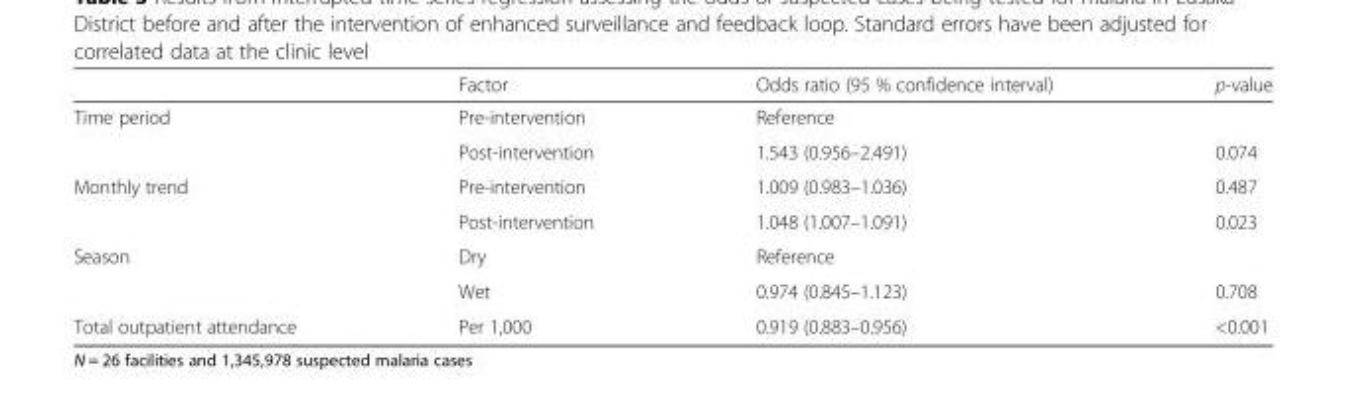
<table><thead><tr><td></td><td>Factor</td><td>Odds ratio (95 % confidence interval)</td><td>p-value</td></tr></thead><tbody><tr><td rowspan="2">Time period</td><td>Pre-intervention</td><td>Reference</td><td></td></tr><tr><td>Post-intervention</td><td>1.543 (0.956–2.491)</td><td>0.074</td></tr><tr><td rowspan="2">Monthly trend</td><td>Pre-intervention</td><td>1.009 (0.983–1.036)</td><td>0.487</td></tr><tr><td>Post-intervention</td><td>1.048 (1.007–1.091)</td><td>0.023</td></tr><tr><td rowspan="2">Season</td><td>Dry</td><td>Reference</td><td></td></tr><tr><td>Wet</td><td>0.974 (0.845–1.123)</td><td>0.708</td></tr><tr><td>Total outpatient attendance</td><td>Per 1,000</td><td>0.919 (0.883–0.956)</td><td>&lt;0.001</td></tr></tbody></table>